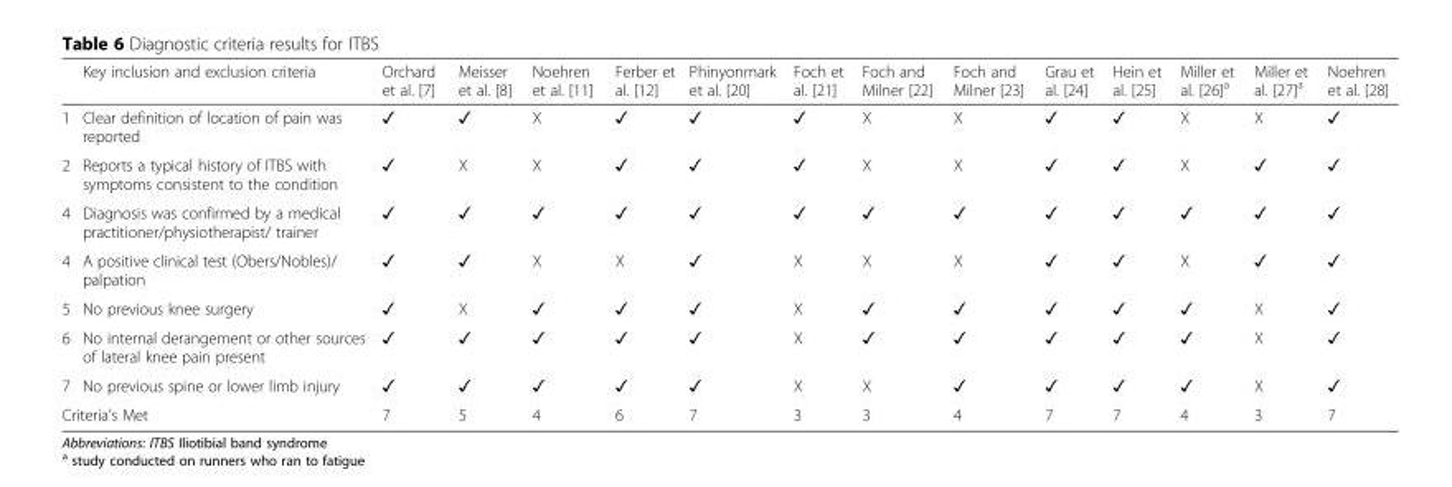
<table><thead><tr><td></td><td>Key inclusion and exclusion criteria</td><td>Orchard et al. [7]</td><td>Meisser et al. [8]</td><td>Noehren et al. [11]</td><td>Ferber et al. [12]</td><td>Phinyonmark et al. [20]</td><td>Foch et al. [21]</td><td>Foch and Milner [22]</td><td>Foch and Milner [23]</td><td>Grau et al. [24]</td><td>Hein et al. [25]</td><td>Miller et al. [26]<sup>a</sup></td><td>Miller et al. [27]<sup>a</sup></td><td>Noehren et al. [28]</td></tr></thead><tbody><tr><td>1</td><td>Clear definition of location of pain was reported</td><td>✓</td><td>✓</td><td>X</td><td>✓</td><td>✓</td><td>✓</td><td>X</td><td>X</td><td>✓</td><td>✓</td><td>X</td><td>X</td><td>✓</td></tr><tr><td>2</td><td>Reports a typical history of ITBS with symptoms consistent to the condition</td><td>✓</td><td>X</td><td>X</td><td>✓</td><td>✓</td><td>✓</td><td>X</td><td>X</td><td>✓</td><td>✓</td><td>X</td><td>✓</td><td>✓</td></tr><tr><td>4</td><td>Diagnosis was confirmed by a medical practitioner/physiotherapist/ trainer</td><td>✓</td><td>✓</td><td>✓</td><td>✓</td><td>✓</td><td>✓</td><td>✓</td><td>✓</td><td>✓</td><td>✓</td><td>✓</td><td>✓</td><td>✓</td></tr><tr><td>4</td><td>A positive clinical test (Obers/Nobles)/ palpation</td><td>✓</td><td>✓</td><td>X</td><td>X</td><td>✓</td><td>X</td><td>X</td><td>X</td><td>✓</td><td>✓</td><td>X</td><td>✓</td><td>✓</td></tr><tr><td>5</td><td>No previous knee surgery</td><td>✓</td><td>X</td><td>✓</td><td>✓</td><td>✓</td><td>X</td><td>✓</td><td>✓</td><td>✓</td><td>✓</td><td>✓</td><td>X</td><td>✓</td></tr><tr><td>6</td><td>No internal derangement or other sources of lateral knee pain present</td><td>✓</td><td>✓</td><td>✓</td><td>✓</td><td>✓</td><td>X</td><td>✓</td><td>✓</td><td>✓</td><td>✓</td><td>✓</td><td>X</td><td>✓</td></tr><tr><td>7</td><td>No previous spine or lower limb injury</td><td>✓</td><td>✓</td><td>✓</td><td>✓</td><td>✓</td><td>X</td><td>X</td><td>✓</td><td>✓</td><td>✓</td><td>✓</td><td>X</td><td>✓</td></tr><tr><td colspan="2">Criteria’s Met</td><td>7</td><td>5</td><td>4</td><td>6</td><td>7</td><td>3</td><td>3</td><td>4</td><td>7</td><td>7</td><td>4</td><td>3</td><td>7</td></tr></tbody></table>